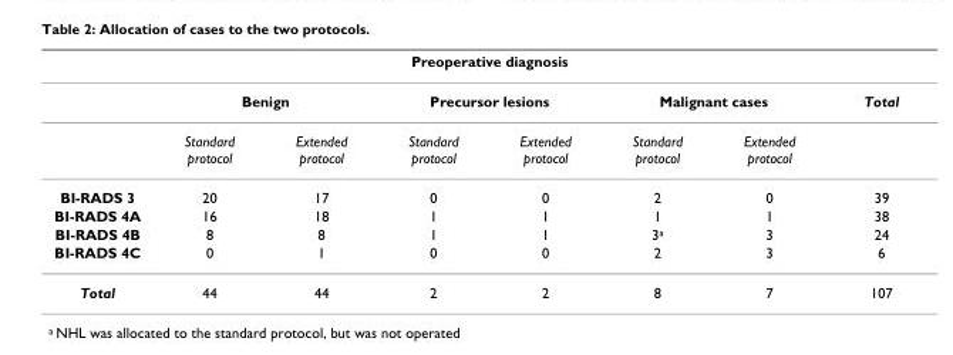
<table><thead><tr><td rowspan="3"></td><td colspan="6">Preoperative diagnosis</td><td rowspan="3">Total</td></tr><tr><td colspan="2">Benign</td><td colspan="2">Precursor lesions</td><td colspan="2">Malignant cases</td></tr><tr><td>Standard protocol</td><td>Extended protocol</td><td>Standard protocol</td><td>Extended protocol</td><td>Standard protocol</td><td>Extended protocol</td></tr></thead><tbody><tr><td>BI-RADS 3</td><td>20</td><td>17</td><td>0</td><td>0</td><td>2</td><td>0</td><td>39</td></tr><tr><td>BI-RADS 4A</td><td>16</td><td>18</td><td>1</td><td>1</td><td>1</td><td>1</td><td>38</td></tr><tr><td>BI-RADS 4B</td><td>8</td><td>8</td><td>1</td><td>1</td><td>3<sup>a</sup></td><td>3</td><td>24</td></tr><tr><td>BI-RADS 4C</td><td>0</td><td>1</td><td>0</td><td>0</td><td>2</td><td>3</td><td>6</td></tr><tr><td>Total</td><td>44</td><td>44</td><td>2</td><td>2</td><td>8</td><td>7</td><td>107</td></tr></tbody></table>